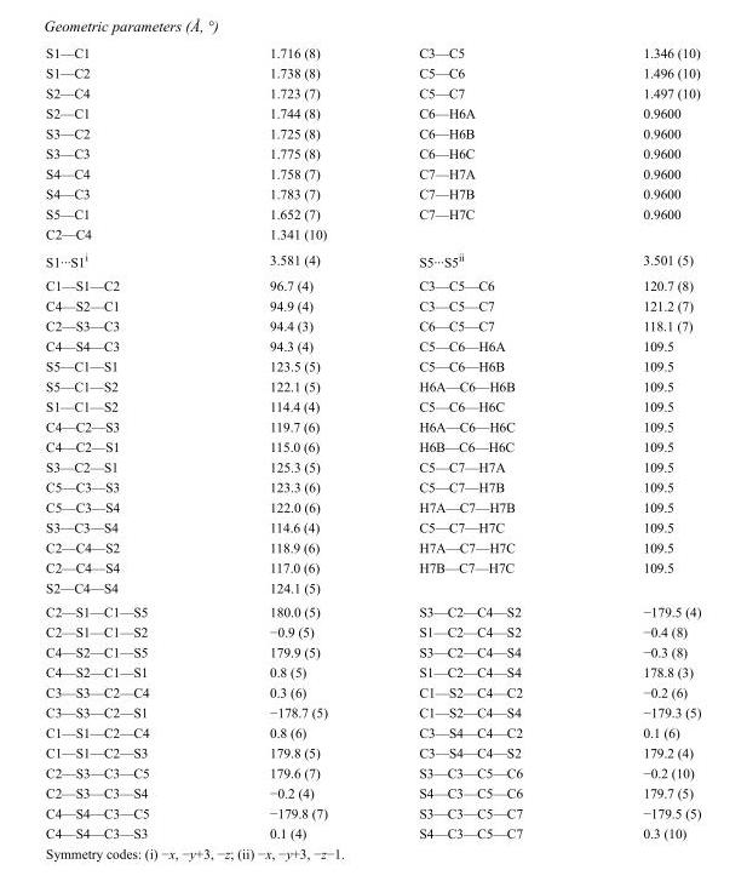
<table><tbody><tr><td>S1—C1</td><td>1.716 (8)</td><td>C3—C5</td><td>1.346 (10)</td></tr><tr><td>S1—C2</td><td>1.738 (8)</td><td>C5—C6</td><td>1.496 (10)</td></tr><tr><td>S2—C4</td><td>1.723 (7)</td><td>C5—C7</td><td>1.497 (10)</td></tr><tr><td>S2—C1</td><td>1.744 (8)</td><td>C6—H6A</td><td>0.9600</td></tr><tr><td>S3—C2</td><td>1.725 (8)</td><td>C6—H6B</td><td>0.9600</td></tr><tr><td>S3—C3</td><td>1.775 (8)</td><td>C6—H6C</td><td>0.9600</td></tr><tr><td>S4—C4</td><td>1.758 (7)</td><td>C7—H7A</td><td>0.9600</td></tr><tr><td>S4—C3</td><td>1.783 (7)</td><td>C7—H7B</td><td>0.9600</td></tr><tr><td>S5—C1</td><td>1.652 (7)</td><td>C7—H7C</td><td>0.9600</td></tr><tr><td>C2—C4</td><td>1.341 (10)</td><td></td><td></td></tr><tr><td>S1···S1<sup>i</sup></td><td>3.581 (4)</td><td>S5···S5<sup>ii</sup></td><td>3.501 (5)</td></tr><tr><td>C1—S1—C2</td><td>96.7 (4)</td><td>C3—C5—C6</td><td>120.7 (8)</td></tr><tr><td>C4—S2—C1</td><td>94.9 (4)</td><td>C3—C5—C7</td><td>121.2 (7)</td></tr><tr><td>C2—S3—C3</td><td>94.4 (3)</td><td>C6—C5—C7</td><td>118.1 (7)</td></tr><tr><td>C4—S4—C3</td><td>94.3 (4)</td><td>C5—C6—H6A</td><td>109.5</td></tr><tr><td>S5—C1—S1</td><td>123.5 (5)</td><td>C5—C6—H6B</td><td>109.5</td></tr><tr><td>S5—C1—S2</td><td>122.1 (5)</td><td>H6A—C6—H6B</td><td>109.5</td></tr><tr><td>S1—C1—S2</td><td>114.4 (4)</td><td>C5—C6—H6C</td><td>109.5</td></tr><tr><td>C4—C2—S3</td><td>119.7 (6)</td><td>H6A—C6—H6C</td><td>109.5</td></tr><tr><td>C4—C2—S1</td><td>115.0 (6)</td><td>H6B—C6—H6C</td><td>109.5</td></tr><tr><td>S3—C2—S1</td><td>125.3 (5)</td><td>C5—C7—H7A</td><td>109.5</td></tr><tr><td>C5—C3—S3</td><td>123.3 (6)</td><td>C5—C7—H7B</td><td>109.5</td></tr><tr><td>C5—C3—S4</td><td>122.0 (6)</td><td>H7A—C7—H7B</td><td>109.5</td></tr><tr><td>S3—C3—S4</td><td>114.6 (4)</td><td>C5—C7—H7C</td><td>109.5</td></tr><tr><td>C2—C4—S2</td><td>118.9 (6)</td><td>H7A—C7—H7C</td><td>109.5</td></tr><tr><td>C2—C4—S4</td><td>117.0 (6)</td><td>H7B—C7—H7C</td><td>109.5</td></tr><tr><td>S2—C4—S4</td><td>124.1 (5)</td><td></td><td></td></tr><tr><td>C2—S1—C1—S5</td><td>180.0 (5)</td><td>S3—C2—C4—S2</td><td>−179.5 (4)</td></tr><tr><td>C2—S1—C1—S2</td><td>−0.9 (5)</td><td>S1—C2—C4—S2</td><td>−0.4 (8)</td></tr><tr><td>C4—S2—C1—S5</td><td>179.9 (5)</td><td>S3—C2—C4—S4</td><td>−0.3 (8)</td></tr><tr><td>C4—S2—C1—S1</td><td>0.8 (5)</td><td>S1—C2—C4—S4</td><td>178.8 (3)</td></tr><tr><td>C3—S3—C2—C4</td><td>0.3 (6)</td><td>C1—S2—C4—C2</td><td>−0.2 (6)</td></tr><tr><td>C3—S3—C2—S1</td><td>−178.7 (5)</td><td>C1—S2—C4—S4</td><td>−179.3 (5)</td></tr><tr><td>C1—S1—C2—C4</td><td>0.8 (6)</td><td>C3—S4—C4—C2</td><td>0.1 (6)</td></tr><tr><td>C1—S1—C2—S3</td><td>179.8 (5)</td><td>C3—S4—C4—S2</td><td>179.2 (4)</td></tr><tr><td>C2—S3—C3—C5</td><td>179.6 (7)</td><td>S3—C3—C5—C6</td><td>−0.2 (10)</td></tr><tr><td>C2—S3—C3—S4</td><td>−0.2 (4)</td><td>S4—C3—C5—C6</td><td>179.7 (5)</td></tr><tr><td>C4—S4—C3—C5</td><td>−179.8 (7)</td><td>S3—C3—C5—C7</td><td>−179.5 (5)</td></tr><tr><td>C4—S4—C3—S3</td><td>0.1 (4)</td><td>S4—C3—C5—C7</td><td>0.3 (10)</td></tr></tbody></table>